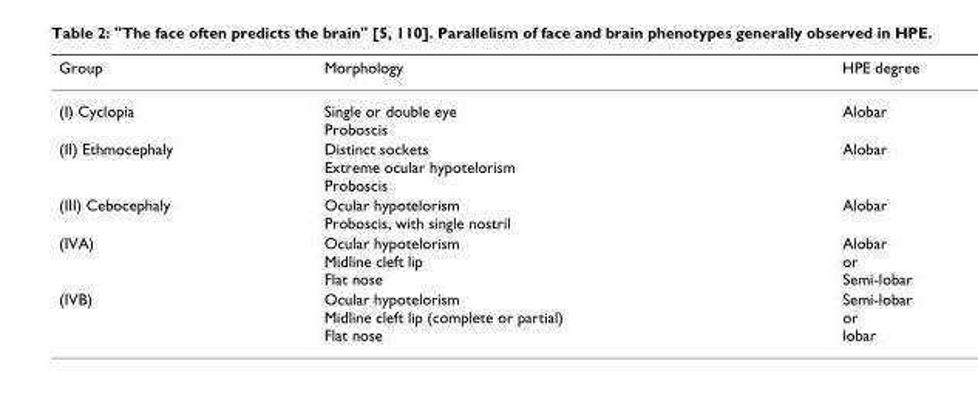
<table><thead><tr><td>Group</td><td>Morphology</td><td>HPE degree</td></tr></thead><tbody><tr><td>(I) Cyclopia</td><td>Single or double eye Proboscis</td><td>Alobar</td></tr><tr><td>(II) Ethmocephaly</td><td>Distinct sockets Extreme ocular hypotelorism Proboscis</td><td>Alobar</td></tr><tr><td>(III) Cebocephaly</td><td>Ocular hypotelorism Proboscis, with single nostril</td><td>Alobar</td></tr><tr><td>(IVA)</td><td>Ocular hypotelorism Midline cleft lip Flat nose</td><td>Alobar or Semi-lobar</td></tr><tr><td>(IVB)</td><td>Ocular hypotelorism Midline cleft lip (complete or partial) Flat nose</td><td>Semi-lobar or lobar</td></tr></tbody></table>